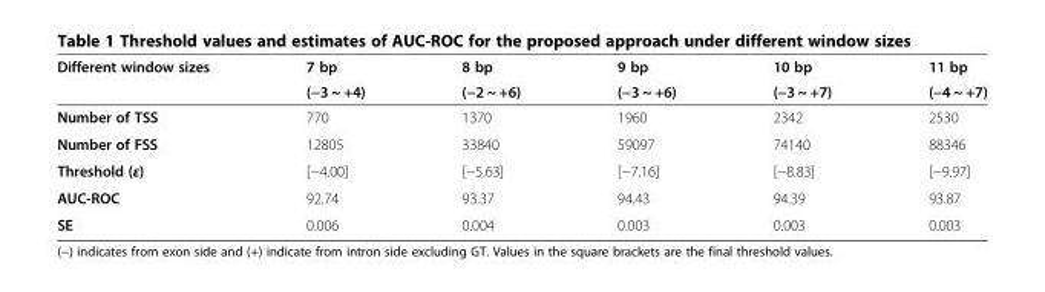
<table><thead><tr><td rowspan="2">Different window sizes</td><td rowspan="2">7 bp (−3 ~ +4)</td><td rowspan="2">8 bp (−2 ~ +6)</td><td rowspan="2">9 bp (−3 ~ +6)</td><td rowspan="2">10 bp (−3 ~ +7)</td><td rowspan="2">11 bp (−4 ~ +7)</td></tr><tr></tr></thead><tbody><tr><td>Number of TSS</td><td>770</td><td>1370</td><td>1960</td><td>2342</td><td>2530</td></tr><tr><td>Number of FSS</td><td>12805</td><td>33840</td><td>59097</td><td>74140</td><td>88346</td></tr><tr><td>Threshold (ε)</td><td>[−4.00]</td><td>[−5.63]</td><td>[−7.16]</td><td>[−8.83]</td><td>[−9.97]</td></tr><tr><td>AUC-ROC</td><td>92.74</td><td>93.37</td><td>94.43</td><td>94.39</td><td>93.87</td></tr><tr><td>SE</td><td>0.006</td><td>0.004</td><td>0.003</td><td>0.003</td><td>0.003</td></tr></tbody></table>